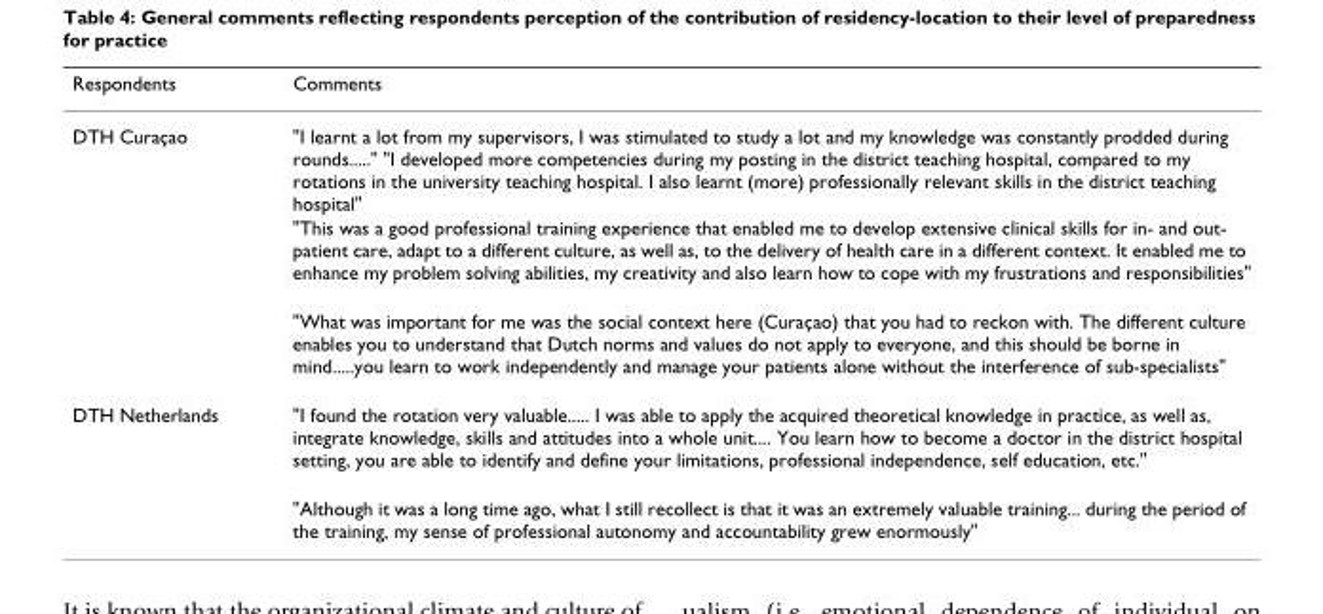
<table><thead><tr><td>Respondents</td><td>Comments</td></tr></thead><tbody><tr><td rowspan="3">DTH Curaçao</td><td>&quot;I learnt a lot from my supervisors, I was stimulated to study a lot and my knowledge was constantly prodded during rounds.....&quot; &quot;I developed more competencies during my posting in the district teaching hospital, compared to my rotations in the university teaching hospital. I also learnt (more) professionally relevant skills in the district teaching hospital&quot;</td></tr><tr><td>&quot;This was a good professional training experience that enabled me to develop extensive clinical skills for in- and out- patient care, adapt to a different culture, as well as, to the delivery of health care in a different context. It enabled me to enhance my problem solving abilities, my creativity and also learn how to cope with my frustrations and responsibilities&quot;</td></tr><tr><td>&quot;What was important for me was the social context here (Curaçao) that you had to reckon with. The different culture enables you to understand that Dutch norms and values do not apply to everyone, and this should be borne in mind.....you learn to work independently and manage your patients alone without the interference of sub-specialists&quot;</td></tr><tr><td rowspan="2">DTH Netherlands</td><td>&quot;I found the rotation very valuable..... I was able to apply the acquired theoretical knowledge in practice, as well as, integrate knowledge, skills and attitudes into a whole unit.... You learn how to become a doctor in the district hospital setting, you are able to identify and define your limitations, professional independence, self education, etc.&quot;</td></tr><tr><td>&quot;Although it was a long time ago, what I still recollect is that it was an extremely valuable training... during the period of the training, my sense of professional autonomy and accountability grew enormously&quot;</td></tr></tbody></table>